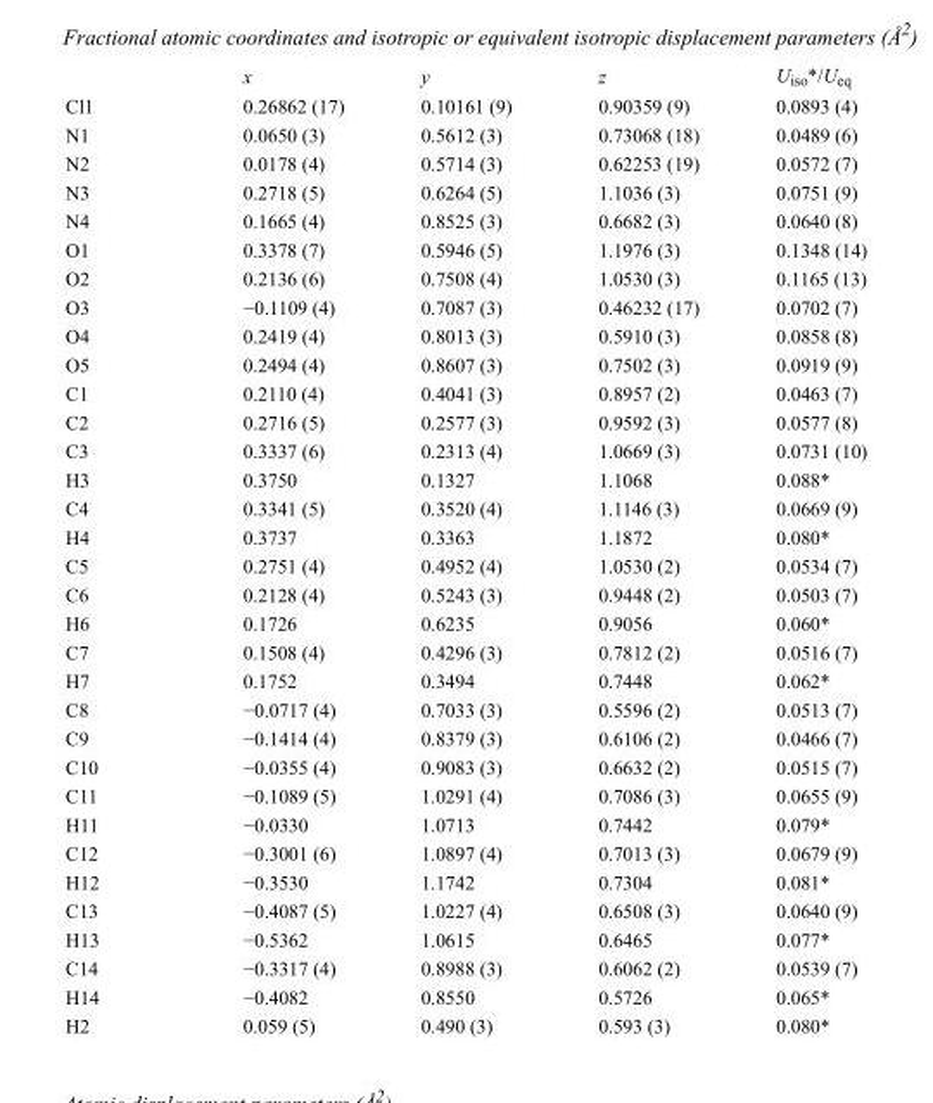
<table><thead><tr><td></td><td>x</td><td>y</td><td>z</td><td>U<sub>iso</sub>*/U<sub>eq</sub></td></tr></thead><tbody><tr><td>Cl1</td><td>0.26862 (17)</td><td>0.10161 (9)</td><td>0.90359 (9)</td><td>0.0893 (4)</td></tr><tr><td>N1</td><td>0.0650 (3)</td><td>0.5612 (3)</td><td>0.73068 (18)</td><td>0.0489 (6)</td></tr><tr><td>N2</td><td>0.0178 (4)</td><td>0.5714 (3)</td><td>0.62253 (19)</td><td>0.0572 (7)</td></tr><tr><td>N3</td><td>0.2718 (5)</td><td>0.6264 (5)</td><td>1.1036 (3)</td><td>0.0751 (9)</td></tr><tr><td>N4</td><td>0.1665 (4)</td><td>0.8525 (3)</td><td>0.6682 (3)</td><td>0.0640 (8)</td></tr><tr><td>O1</td><td>0.3378 (7)</td><td>0.5946 (5)</td><td>1.1976 (3)</td><td>0.1348 (14)</td></tr><tr><td>O2</td><td>0.2136 (6)</td><td>0.7508 (4)</td><td>1.0530 (3)</td><td>0.1165 (13)</td></tr><tr><td>O3</td><td>−0.1109 (4)</td><td>0.7087 (3)</td><td>0.46232 (17)</td><td>0.0702 (7)</td></tr><tr><td>O4</td><td>0.2419 (4)</td><td>0.8013 (3)</td><td>0.5910 (3)</td><td>0.0858 (8)</td></tr><tr><td>O5</td><td>0.2494 (4)</td><td>0.8607 (3)</td><td>0.7502 (3)</td><td>0.0919 (9)</td></tr><tr><td>C1</td><td>0.2110 (4)</td><td>0.4041 (3)</td><td>0.8957 (2)</td><td>0.0463 (7)</td></tr><tr><td>C2</td><td>0.2716 (5)</td><td>0.2577 (3)</td><td>0.9592 (3)</td><td>0.0577 (8)</td></tr><tr><td>C3</td><td>0.3337 (6)</td><td>0.2313 (4)</td><td>1.0669 (3)</td><td>0.0731 (10)</td></tr><tr><td>H3</td><td>0.3750</td><td>0.1327</td><td>1.1068</td><td>0.088*</td></tr><tr><td>C4</td><td>0.3341 (5)</td><td>0.3520 (4)</td><td>1.1146 (3)</td><td>0.0669 (9)</td></tr><tr><td>H4</td><td>0.3737</td><td>0.3363</td><td>1.1872</td><td>0.080*</td></tr><tr><td>C5</td><td>0.2751 (4)</td><td>0.4952 (4)</td><td>1.0530 (2)</td><td>0.0534 (7)</td></tr><tr><td>C6</td><td>0.2128 (4)</td><td>0.5243 (3)</td><td>0.9448 (2)</td><td>0.0503 (7)</td></tr><tr><td>H6</td><td>0.1726</td><td>0.6235</td><td>0.9056</td><td>0.060*</td></tr><tr><td>C7</td><td>0.1508 (4)</td><td>0.4296 (3)</td><td>0.7812 (2)</td><td>0.0516 (7)</td></tr><tr><td>H7</td><td>0.1752</td><td>0.3494</td><td>0.7448</td><td>0.062*</td></tr><tr><td>C8</td><td>−0.0717 (4)</td><td>0.7033 (3)</td><td>0.5596 (2)</td><td>0.0513 (7)</td></tr><tr><td>C9</td><td>−0.1414 (4)</td><td>0.8379 (3)</td><td>0.6106 (2)</td><td>0.0466 (7)</td></tr><tr><td>C10</td><td>−0.0355 (4)</td><td>0.9083 (3)</td><td>0.6632 (2)</td><td>0.0515 (7)</td></tr><tr><td>C11</td><td>−0.1089 (5)</td><td>1.0291 (4)</td><td>0.7086 (3)</td><td>0.0655 (9)</td></tr><tr><td>H11</td><td>−0.0330</td><td>1.0713</td><td>0.7442</td><td>0.079*</td></tr><tr><td>C12</td><td>−0.3001 (6)</td><td>1.0897 (4)</td><td>0.7013 (3)</td><td>0.0679 (9)</td></tr><tr><td>H12</td><td>−0.3530</td><td>1.1742</td><td>0.7304</td><td>0.081*</td></tr><tr><td>C13</td><td>−0.4087 (5)</td><td>1.0227 (4)</td><td>0.6508 (3)</td><td>0.0640 (9)</td></tr><tr><td>H13</td><td>−0.5362</td><td>1.0615</td><td>0.6465</td><td>0.077*</td></tr><tr><td>C14</td><td>−0.3317 (4)</td><td>0.8988 (3)</td><td>0.6062 (2)</td><td>0.0539 (7)</td></tr><tr><td>H14</td><td>−0.4082</td><td>0.8550</td><td>0.5726</td><td>0.065*</td></tr><tr><td>H2</td><td>0.059 (5)</td><td>0.490 (3)</td><td>0.593 (3)</td><td>0.080*</td></tr></tbody></table>